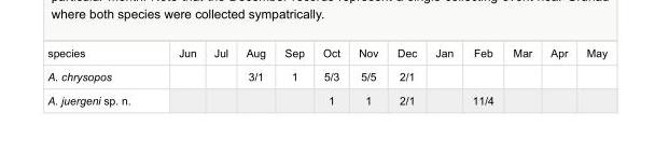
<table><tbody><tr><td>species</td><td>Jun</td><td>Jul</td><td>Aug</td><td>Sep</td><td>Oct</td><td>Nov</td><td>Dec</td><td>Jan</td><td>Feb</td><td>Mar</td><td>Apr</td><td>May</td></tr><tr><td>A. chrysopos</td><td></td><td></td><td>3/1</td><td>1</td><td>5/3</td><td>5/5</td><td>2/1</td><td></td><td></td><td></td><td></td><td></td></tr><tr><td>A. juergeni sp. n.</td><td></td><td></td><td></td><td></td><td>1</td><td>1</td><td>2/1</td><td></td><td>11/4</td><td></td><td></td><td></td></tr></tbody></table>